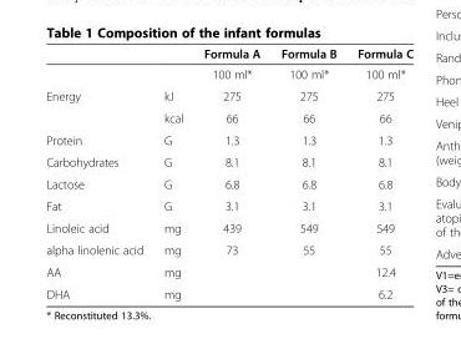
<table><thead><tr><td></td><td></td><td>Formula A</td><td>Formula B</td><td>Formula C</td></tr></thead><tbody><tr><td></td><td></td><td>100 ml*</td><td>100 ml*</td><td>100 ml*</td></tr><tr><td rowspan="2">Energy</td><td>kJ</td><td>275</td><td>275</td><td>275</td></tr><tr><td>kcal</td><td>66</td><td>66</td><td>66</td></tr><tr><td>Protein</td><td>G</td><td>1.3</td><td>1.3</td><td>1.3</td></tr><tr><td>Carbohydrates</td><td>G</td><td>8.1</td><td>8.1</td><td>8.1</td></tr><tr><td>Lactose</td><td>G</td><td>6.8</td><td>6.8</td><td>6.8</td></tr><tr><td>Fat</td><td>G</td><td>3.1</td><td>3.1</td><td>3.1</td></tr><tr><td>Linoleic acid</td><td>mg</td><td>439</td><td>549</td><td>549</td></tr><tr><td>alpha linolenic acid</td><td>mg</td><td>73</td><td>55</td><td>55</td></tr><tr><td>AA</td><td>mg</td><td></td><td></td><td>12.4</td></tr><tr><td>DHA</td><td>mg</td><td></td><td></td><td>6.2</td></tr></tbody></table>